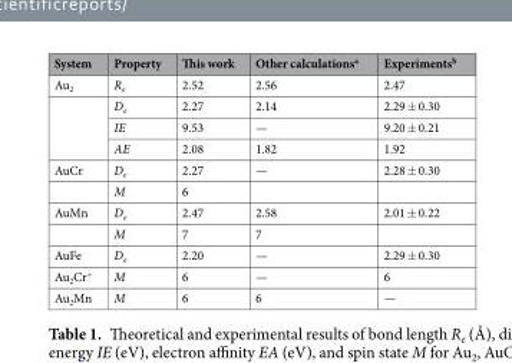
<table><thead><tr><td>System</td><td>Property</td><td>This work</td><td>Other calculations<sup>a</sup></td><td>Experiments<sup>b</sup></td></tr></thead><tbody><tr><td rowspan="4">Au<sub>2</sub></td><td>R<sub>e</sub></td><td>2.52</td><td>2.56</td><td>2.47</td></tr><tr><td>D<sub>e</sub></td><td>2.27</td><td>2.14</td><td>2.29 ± 0.30</td></tr><tr><td>IE</td><td>9.53</td><td>—</td><td>9.20 ± 0.21</td></tr><tr><td>AE</td><td>2.08</td><td>1.82</td><td>1.92</td></tr><tr><td rowspan="2">AuCr</td><td>D<sub>e</sub></td><td>2.27</td><td>—</td><td>2.28 ± 0.30</td></tr><tr><td>M</td><td>6</td><td></td><td></td></tr><tr><td rowspan="2">AuMn</td><td>D<sub>e</sub></td><td>2.47</td><td>2.58</td><td>2.01 ± 0.22</td></tr><tr><td>M</td><td>7</td><td>7</td><td></td></tr><tr><td>AuFe</td><td>D<sub>e</sub></td><td>2.20</td><td>—</td><td>2.29 ± 0.30</td></tr><tr><td>Au<sub>2</sub>Cr<sup>+</sup></td><td>M</td><td>6</td><td>—</td><td>6</td></tr><tr><td>Au<sub>2</sub>Mn</td><td>M</td><td>6</td><td>6</td><td>—</td></tr></tbody></table>